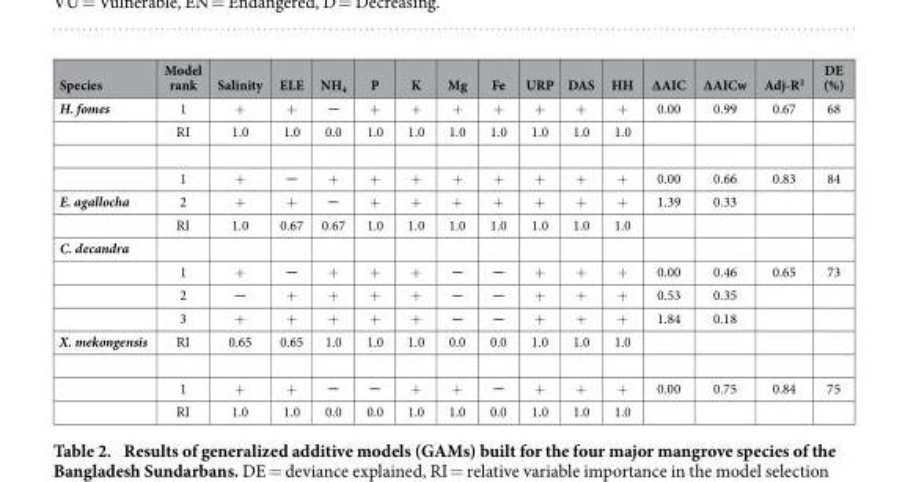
<table><thead><tr><td>Species</td><td>Model rank</td><td>Salinity</td><td>ELE</td><td>NH<sub>4</sub></td><td>P</td><td>K</td><td>Mg</td><td>Fe</td><td>URP</td><td>DAS</td><td>HH</td><td>∆AIC</td><td>∆AICw</td><td>Adj-R<sup>2</sup></td><td>DE (%)</td></tr></thead><tbody><tr><td rowspan="3">H. fomes</td><td>1</td><td>+</td><td>+</td><td>─</td><td>+</td><td>+</td><td>+</td><td>+</td><td>+</td><td>+</td><td>+</td><td>0.00</td><td>0.99</td><td>0.67</td><td>68</td></tr><tr><td>RI</td><td>1.0</td><td>1.0</td><td>0.0</td><td>1.0</td><td>1.0</td><td>1.0</td><td>1.0</td><td>1.0</td><td>1.0</td><td>1.0</td><td></td><td></td><td></td><td></td></tr><tr><td>1</td><td>+</td><td>─</td><td>+</td><td>+</td><td>+</td><td>+</td><td>+</td><td>+</td><td>+</td><td>+</td><td>0.00</td><td>0.66</td><td>0.83</td><td>84</td></tr><tr><td rowspan="2">E. agallocha</td><td>2</td><td>+</td><td>+</td><td>─</td><td>+</td><td>+</td><td>+</td><td>+</td><td>+</td><td>+</td><td>+</td><td>1.39</td><td>0.33</td><td></td><td></td></tr><tr><td>RI</td><td>1.0</td><td>0.67</td><td>0.67</td><td>1.0</td><td>1.0</td><td>1.0</td><td>1.0</td><td>1.0</td><td>1.0</td><td>1.0</td><td></td><td></td><td></td><td></td></tr><tr><td colspan="16">C. decandra</td></tr><tr><td></td><td>1</td><td>+</td><td>─</td><td>+</td><td>+</td><td>+</td><td>─</td><td>─</td><td>+</td><td>+</td><td>+</td><td>0.00</td><td>0.46</td><td>0.65</td><td>73</td></tr><tr><td></td><td>2</td><td>─</td><td>+</td><td>+</td><td>+</td><td>+</td><td>─</td><td>─</td><td>+</td><td>+</td><td>+</td><td>0.53</td><td>0.35</td><td></td><td></td></tr><tr><td></td><td>3</td><td>+</td><td>+</td><td>+</td><td>+</td><td>+</td><td>─</td><td>─</td><td>+</td><td>+</td><td>+</td><td>1.84</td><td>0.18</td><td></td><td></td></tr><tr><td rowspan="3">X. mekongensis</td><td>RI</td><td>0.65</td><td>0.65</td><td>1.0</td><td>1.0</td><td>1.0</td><td>0.0</td><td>0.0</td><td>1.0</td><td>1.0</td><td>1.0</td><td></td><td></td><td></td><td></td></tr><tr><td>1</td><td>+</td><td>+</td><td>─</td><td>─</td><td>+</td><td>+</td><td>─</td><td>+</td><td>+</td><td>+</td><td>0.00</td><td>0.75</td><td>0.84</td><td>75</td></tr><tr><td>RI</td><td>1.0</td><td>1.0</td><td>0.0</td><td>0.0</td><td>1.0</td><td>1.0</td><td>0.0</td><td>1.0</td><td>1.0</td><td>1.0</td><td></td><td></td><td></td><td></td></tr></tbody></table>